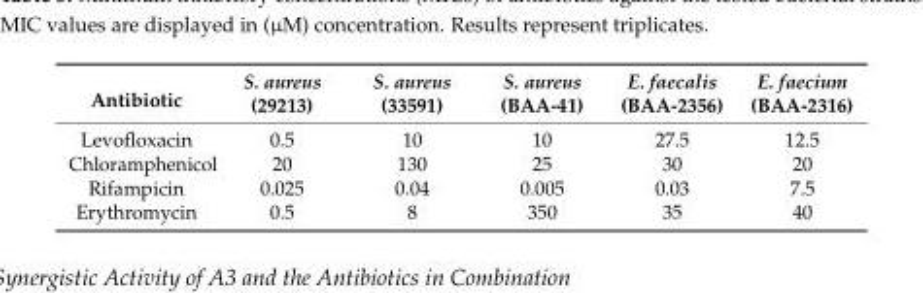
<table><thead><tr><td>Antibiotic</td><td>S. aureus (29213)</td><td>S. aureus (33591)</td><td>S. aureus (BAA-41)</td><td>E. faecalis (BAA-2356)</td><td>E. faecium (BAA-2316)</td></tr></thead><tbody><tr><td>Levofloxacin</td><td>0.5</td><td>10</td><td>10</td><td>27.5</td><td>12.5</td></tr><tr><td>Chloramphenicol</td><td>20</td><td>130</td><td>25</td><td>30</td><td>20</td></tr><tr><td>Rifampicin</td><td>0.025</td><td>0.04</td><td>0.005</td><td>0.03</td><td>7.5</td></tr><tr><td>Erythromycin</td><td>0.5</td><td>8</td><td>350</td><td>35</td><td>40</td></tr></tbody></table>